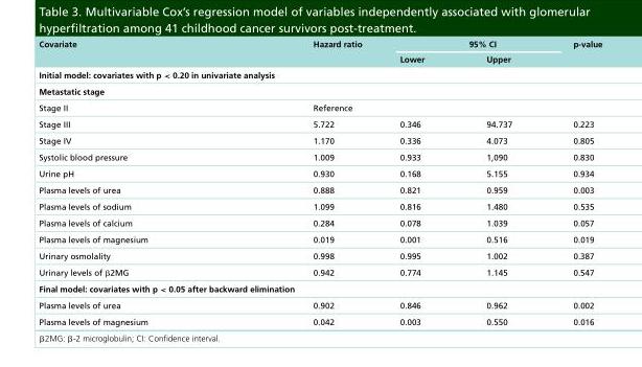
<table><thead><tr><td rowspan="2">Covariate</td><td rowspan="2">Hazard ratio</td><td colspan="2">95% CI</td><td rowspan="2">p-value</td></tr><tr><td>Lower</td><td>Upper</td></tr></thead><tbody><tr><td colspan="5">Initial model: covariates with p &lt; 0.20 in univariate analysis</td></tr><tr><td colspan="5">Metastatic stage</td></tr><tr><td>Stage II</td><td>Reference</td><td></td><td></td><td></td></tr><tr><td>Stage III</td><td>5.722</td><td>0.346</td><td>94.737</td><td>0.223</td></tr><tr><td>Stage IV</td><td>1.170</td><td>0.336</td><td>4.073</td><td>0.805</td></tr><tr><td>Systolic blood pressure</td><td>1.009</td><td>0.933</td><td>1,090</td><td>0.830</td></tr><tr><td>Urine pH</td><td>0.930</td><td>0.168</td><td>5.155</td><td>0.934</td></tr><tr><td>Plasma levels of urea</td><td>0.888</td><td>0.821</td><td>0.959</td><td>0.003</td></tr><tr><td>Plasma levels of sodium</td><td>1.099</td><td>0.816</td><td>1.480</td><td>0.535</td></tr><tr><td>Plasma levels of calcium</td><td>0.284</td><td>0.078</td><td>1.039</td><td>0.057</td></tr><tr><td>Plasma levels of magnesium</td><td>0.019</td><td>0.001</td><td>0.516</td><td>0.019</td></tr><tr><td>Urinary osmolality</td><td>0.998</td><td>0.995</td><td>1.002</td><td>0.387</td></tr><tr><td>Urinary levels of β2MG</td><td>0.942</td><td>0.774</td><td>1.145</td><td>0.547</td></tr><tr><td colspan="5">Final model: covariates with p &lt; 0.05 after backward elimination</td></tr><tr><td>Plasma levels of urea</td><td>0.902</td><td>0.846</td><td>0.962</td><td>0.002</td></tr><tr><td>Plasma levels of magnesium</td><td>0.042</td><td>0.003</td><td>0.550</td><td>0.016</td></tr></tbody></table>